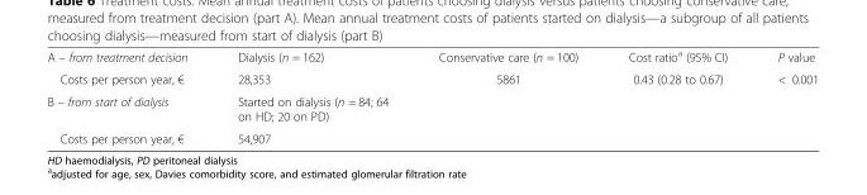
<table><tbody><tr><td>A – from treatment decision</td><td>Dialysis (n = 162)</td><td>Conservative care (n = 100)</td><td>Cost ratio<sup>a</sup> (95% CI)</td><td>P value</td></tr><tr><td>Costs per person year, €</td><td>28,353</td><td>5861</td><td>0.43 (0.28 to 0.67)</td><td>&lt; 0.001</td></tr><tr><td>B – from start of dialysis</td><td>Started on dialysis (n = 84; 64 on HD; 20 on PD)</td><td></td><td></td><td></td></tr><tr><td>Costs per person year, €</td><td>54,907</td><td></td><td></td><td></td></tr></tbody></table>